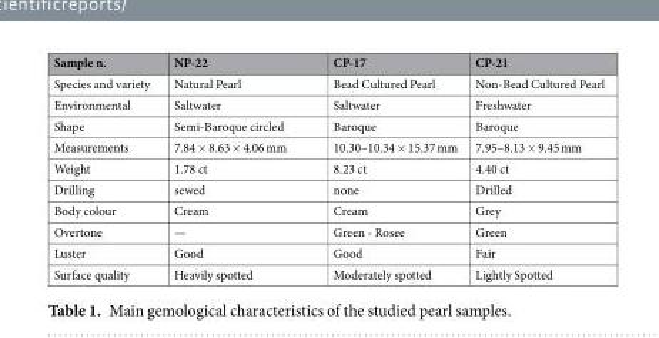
<table><thead><tr><td>Sample n.</td><td>NP-22</td><td>CP-17</td><td>CP-21</td></tr></thead><tbody><tr><td>Species and variety</td><td>Natural Pearl</td><td>Bead Cultured Pearl</td><td>Non-Bead Cultured Pearl</td></tr><tr><td>Environmental</td><td>Saltwater</td><td>Saltwater</td><td>Freshwater</td></tr><tr><td>Shape</td><td>Semi-Baroque circled</td><td>Baroque</td><td>Baroque</td></tr><tr><td>Measurements</td><td>7.84 × 8.63 × 4.06 mm</td><td>10.30–10.34 × 15.37 mm</td><td>7.95–8.13 × 9.45 mm</td></tr><tr><td>Weight</td><td>1.78 ct</td><td>8.23 ct</td><td>4.40 ct</td></tr><tr><td>Drilling</td><td>sewed</td><td>none</td><td>Drilled</td></tr><tr><td>Body colour</td><td>Cream</td><td>Cream</td><td>Grey</td></tr><tr><td>Overtone</td><td>—</td><td>Green - Rosee</td><td>Green</td></tr><tr><td>Luster</td><td>Good</td><td>Good</td><td>Fair</td></tr><tr><td>Surface quality</td><td>Heavily spotted</td><td>Moderately spotted</td><td>Lightly Spotted</td></tr></tbody></table>